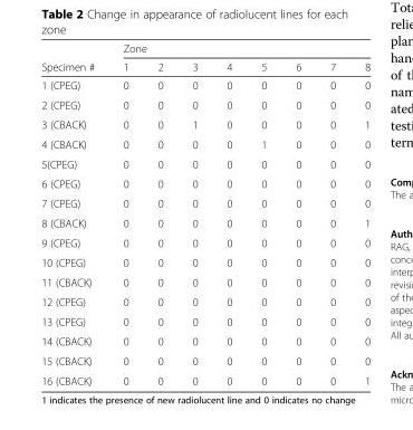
<table><thead><tr><td rowspan="2">Specimen #</td><td colspan="8">Zone</td></tr><tr><td>1</td><td>2</td><td>3</td><td>4</td><td>5</td><td>6</td><td>7</td><td>8</td></tr></thead><tbody><tr><td>1 (CPEG)</td><td>0</td><td>0</td><td>0</td><td>0</td><td>0</td><td>0</td><td>0</td><td>0</td></tr><tr><td>2 (CPEG)</td><td>0</td><td>0</td><td>0</td><td>0</td><td>0</td><td>0</td><td>0</td><td>0</td></tr><tr><td>3 (CBACK)</td><td>0</td><td>0</td><td>1</td><td>0</td><td>0</td><td>0</td><td>0</td><td>1</td></tr><tr><td>4 (CBACK)</td><td>0</td><td>0</td><td>0</td><td>0</td><td>1</td><td>0</td><td>0</td><td>0</td></tr><tr><td>5(CPEG)</td><td>0</td><td>0</td><td>0</td><td>0</td><td>0</td><td>0</td><td>0</td><td>0</td></tr><tr><td>6 (CPEG)</td><td>0</td><td>0</td><td>0</td><td>0</td><td>0</td><td>0</td><td>0</td><td>0</td></tr><tr><td>7 (CPEG)</td><td>0</td><td>0</td><td>0</td><td>0</td><td>0</td><td>0</td><td>0</td><td>0</td></tr><tr><td>8 (CBACK)</td><td>0</td><td>0</td><td>0</td><td>0</td><td>0</td><td>0</td><td>0</td><td>1</td></tr><tr><td>9 (CPEG)</td><td>0</td><td>0</td><td>0</td><td>0</td><td>0</td><td>0</td><td>0</td><td>0</td></tr><tr><td>10 (CPEG)</td><td>0</td><td>0</td><td>0</td><td>0</td><td>0</td><td>0</td><td>0</td><td>0</td></tr><tr><td>11 (CBACK)</td><td>0</td><td>0</td><td>0</td><td>0</td><td>0</td><td>0</td><td>0</td><td>0</td></tr><tr><td>12 (CPEG)</td><td>0</td><td>0</td><td>0</td><td>0</td><td>0</td><td>0</td><td>0</td><td>0</td></tr><tr><td>13 (CPEG)</td><td>0</td><td>0</td><td>0</td><td>0</td><td>0</td><td>0</td><td>0</td><td>0</td></tr><tr><td>14 (CBACK)</td><td>0</td><td>0</td><td>0</td><td>0</td><td>0</td><td>0</td><td>0</td><td>0</td></tr><tr><td>15 (CBACK)</td><td>0</td><td>0</td><td>0</td><td>0</td><td>0</td><td>0</td><td>0</td><td>0</td></tr><tr><td>16 (CBACK)</td><td>0</td><td>0</td><td>0</td><td>0</td><td>0</td><td>0</td><td>0</td><td>1</td></tr></tbody></table>